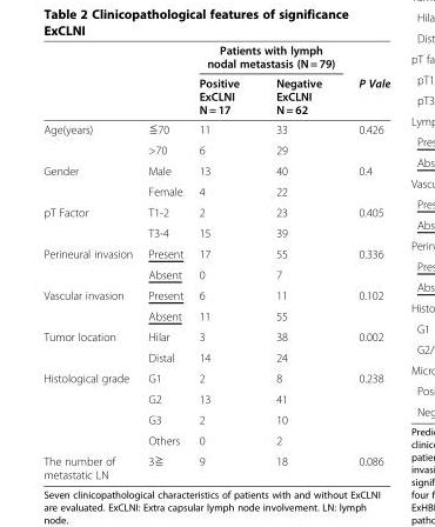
<table><thead><tr><td rowspan="2"></td><td rowspan="2"></td><td colspan="2">Patients with lymph nodal metastasis (N = 79)</td><td rowspan="2">P Vale</td></tr><tr><td>Positive ExCLNI N = 17</td><td>Negative ExCLNI N = 62</td></tr></thead><tbody><tr><td rowspan="2">Age(years)</td><td>≦70</td><td>11</td><td>33</td><td>0.426</td></tr><tr><td>&gt;70</td><td>6</td><td>29</td><td></td></tr><tr><td rowspan="2">Gender</td><td>Male</td><td>13</td><td>40</td><td>0.4</td></tr><tr><td>Female</td><td>4</td><td>22</td><td></td></tr><tr><td rowspan="2">pT Factor</td><td>T1-2</td><td>2</td><td>23</td><td>0.405</td></tr><tr><td>T3-4</td><td>15</td><td>39</td><td></td></tr><tr><td rowspan="2">Perineural invasion</td><td>Present</td><td>17</td><td>55</td><td>0.336</td></tr><tr><td>Absent</td><td>0</td><td>7</td><td></td></tr><tr><td rowspan="2">Vascular invasion</td><td>Present</td><td>6</td><td>11</td><td>0.102</td></tr><tr><td>Absent</td><td>11</td><td>55</td><td></td></tr><tr><td rowspan="2">Tumor location</td><td>Hilar</td><td>3</td><td>38</td><td>0.002</td></tr><tr><td>Distal</td><td>14</td><td>24</td><td></td></tr><tr><td rowspan="4">Histological grade</td><td>G1</td><td>2</td><td>8</td><td>0.238</td></tr><tr><td>G2</td><td>13</td><td>41</td><td></td></tr><tr><td>G3</td><td>2</td><td>10</td><td></td></tr><tr><td>Others</td><td>0</td><td>2</td><td></td></tr><tr><td>The number of metastatic LN</td><td>3≧</td><td>9</td><td>18</td><td>0.086</td></tr></tbody></table>